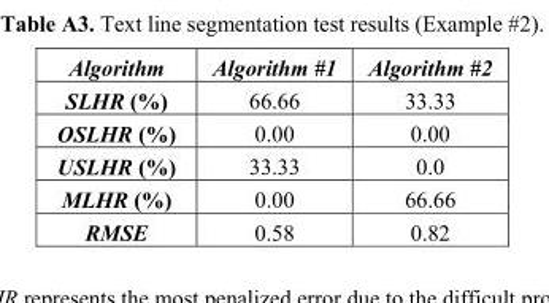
<table><thead><tr><td>Algorithm</td><td>Algorithm #1</td><td>Algorithm #2</td></tr></thead><tbody><tr><td>SLHR (%)</td><td>66.66</td><td>33.33</td></tr><tr><td>OSLHR (%)</td><td>0.00</td><td>0.00</td></tr><tr><td>USLHR (%)</td><td>33.33</td><td>0.0</td></tr><tr><td>MLHR (%)</td><td>0.00</td><td>66.66</td></tr><tr><td>RMSE</td><td>0.58</td><td>0.82</td></tr></tbody></table>